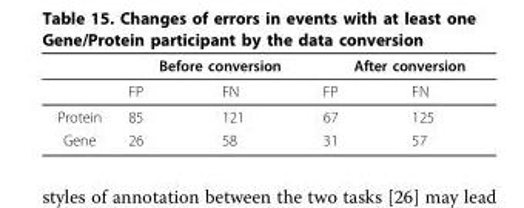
<table><thead><tr><td rowspan="2"></td><td colspan="2">Before conversion</td><td colspan="2">After conversion</td></tr><tr><td>FP</td><td>FN</td><td>FP</td><td>FN</td></tr></thead><tbody><tr><td>Protein</td><td>85</td><td>121</td><td>67</td><td>125</td></tr><tr><td>Gene</td><td>26</td><td>58</td><td>31</td><td>57</td></tr></tbody></table>